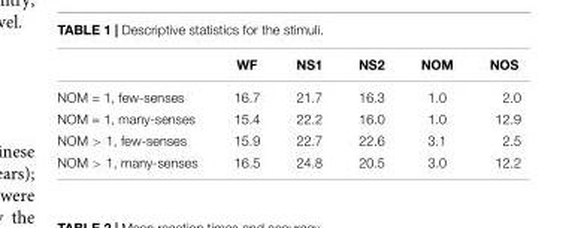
<table><thead><tr><td></td><td>WF</td><td>NS1</td><td>NS2</td><td>NOM</td><td>NOS</td></tr></thead><tbody><tr><td>NOM = 1, few-senses</td><td>16.7</td><td>21.7</td><td>16.3</td><td>1.0</td><td>2.0</td></tr><tr><td>NOM = 1, many-senses</td><td>15.4</td><td>22.2</td><td>16.0</td><td>1.0</td><td>12.9</td></tr><tr><td>NOM &gt; 1, few-senses</td><td>15.9</td><td>22.7</td><td>22.6</td><td>3.1</td><td>2.5</td></tr><tr><td>NOM &gt; 1, many-senses</td><td>16.5</td><td>24.8</td><td>20.5</td><td>3.0</td><td>12.2</td></tr></tbody></table>